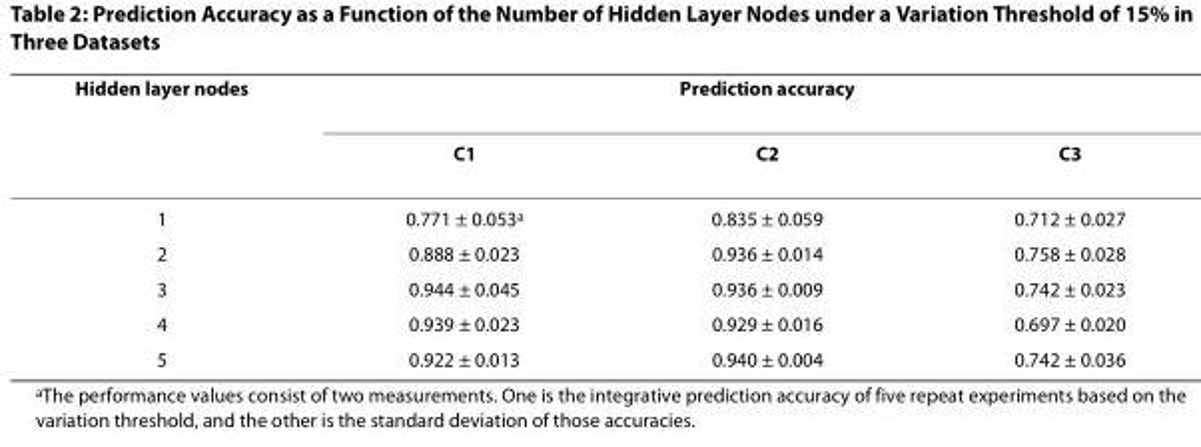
<table><thead><tr><td rowspan="2">Hidden layer nodes</td><td colspan="3">Prediction accuracy</td></tr><tr><td>C1</td><td>C2</td><td>C3</td></tr></thead><tbody><tr><td>1</td><td>0.771 ± 0.053<sup>a</sup></td><td>0.835 ± 0.059</td><td>0.712 ± 0.027</td></tr><tr><td>2</td><td>0.888 ± 0.023</td><td>0.936 ± 0.014</td><td>0.758 ± 0.028</td></tr><tr><td>3</td><td>0.944 ± 0.045</td><td>0.936 ± 0.009</td><td>0.742 ± 0.023</td></tr><tr><td>4</td><td>0.939 ± 0.023</td><td>0.929 ± 0.016</td><td>0.697 ± 0.020</td></tr><tr><td>5</td><td>0.922 ± 0.013</td><td>0.940 ± 0.004</td><td>0.742 ± 0.036</td></tr></tbody></table>